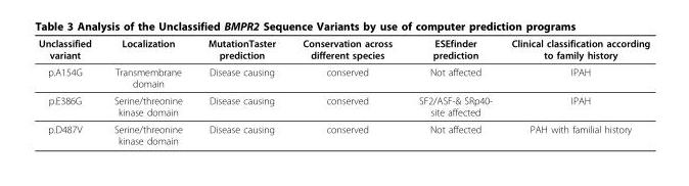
<table><thead><tr><td>Unclassified variant</td><td>Localization</td><td>MutationTaster prediction</td><td>Conservation across different species</td><td>ESEfinder prediction</td><td>Clinical classification according to family history</td></tr></thead><tbody><tr><td>p.A154G</td><td>Transmembrane domain</td><td>Disease causing</td><td>conserved</td><td>Not affected</td><td>IPAH</td></tr><tr><td>p.E386G</td><td>Serine/threonine kinase domain</td><td>Disease causing</td><td>conserved</td><td>SF2/ASF-&amp; SRp40- site affected</td><td>IPAH</td></tr><tr><td>p.D487V</td><td>Serine/threonine kinase domain</td><td>Disease causing</td><td>conserved</td><td>Not affected</td><td>PAH with familial history</td></tr></tbody></table>